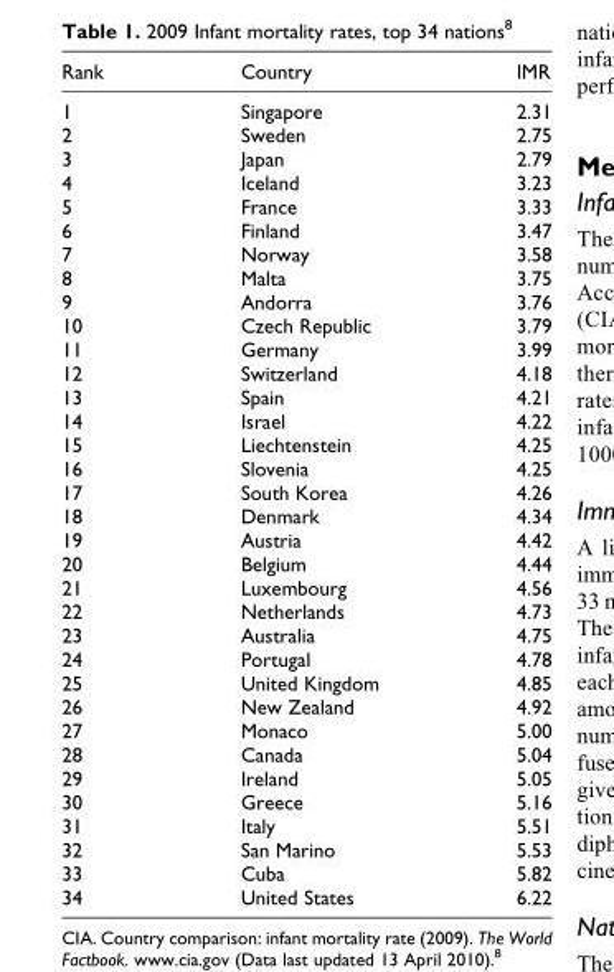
<table><thead><tr><td>Rank</td><td>Country</td><td>IMR</td></tr></thead><tbody><tr><td>1</td><td>Singapore</td><td>2.31</td></tr><tr><td>2</td><td>Sweden</td><td>2.75</td></tr><tr><td>3</td><td>Japan</td><td>2.79</td></tr><tr><td>4</td><td>Iceland</td><td>3.23</td></tr><tr><td>5</td><td>France</td><td>3.33</td></tr><tr><td>6</td><td>Finland</td><td>3.47</td></tr><tr><td>7</td><td>Norway</td><td>3.58</td></tr><tr><td>8</td><td>Malta</td><td>3.75</td></tr><tr><td>9</td><td>Andorra</td><td>3.76</td></tr><tr><td>10</td><td>Czech Republic</td><td>3.79</td></tr><tr><td>11</td><td>Germany</td><td>3.99</td></tr><tr><td>12</td><td>Switzerland</td><td>4.18</td></tr><tr><td>13</td><td>Spain</td><td>4.21</td></tr><tr><td>14</td><td>Israel</td><td>4.22</td></tr><tr><td>15</td><td>Liechtenstein</td><td>4.25</td></tr><tr><td>16</td><td>Slovenia</td><td>4.25</td></tr><tr><td>17</td><td>South Korea</td><td>4.26</td></tr><tr><td>18</td><td>Denmark</td><td>4.34</td></tr><tr><td>19</td><td>Austria</td><td>4.42</td></tr><tr><td>20</td><td>Belgium</td><td>4.44</td></tr><tr><td>21</td><td>Luxembourg</td><td>4.56</td></tr><tr><td>22</td><td>Netherlands</td><td>4.73</td></tr><tr><td>23</td><td>Australia</td><td>4.75</td></tr><tr><td>24</td><td>Portugal</td><td>4.78</td></tr><tr><td>25</td><td>United Kingdom</td><td>4.85</td></tr><tr><td>26</td><td>New Zealand</td><td>4.92</td></tr><tr><td>27</td><td>Monaco</td><td>5.00</td></tr><tr><td>28</td><td>Canada</td><td>5.04</td></tr><tr><td>29</td><td>Ireland</td><td>5.05</td></tr><tr><td>30</td><td>Greece</td><td>5.16</td></tr><tr><td>31</td><td>Italy</td><td>5.51</td></tr><tr><td>32</td><td>San Marino</td><td>5.53</td></tr><tr><td>33</td><td>Cuba</td><td>5.82</td></tr><tr><td>34</td><td>United States</td><td>6.22</td></tr></tbody></table>